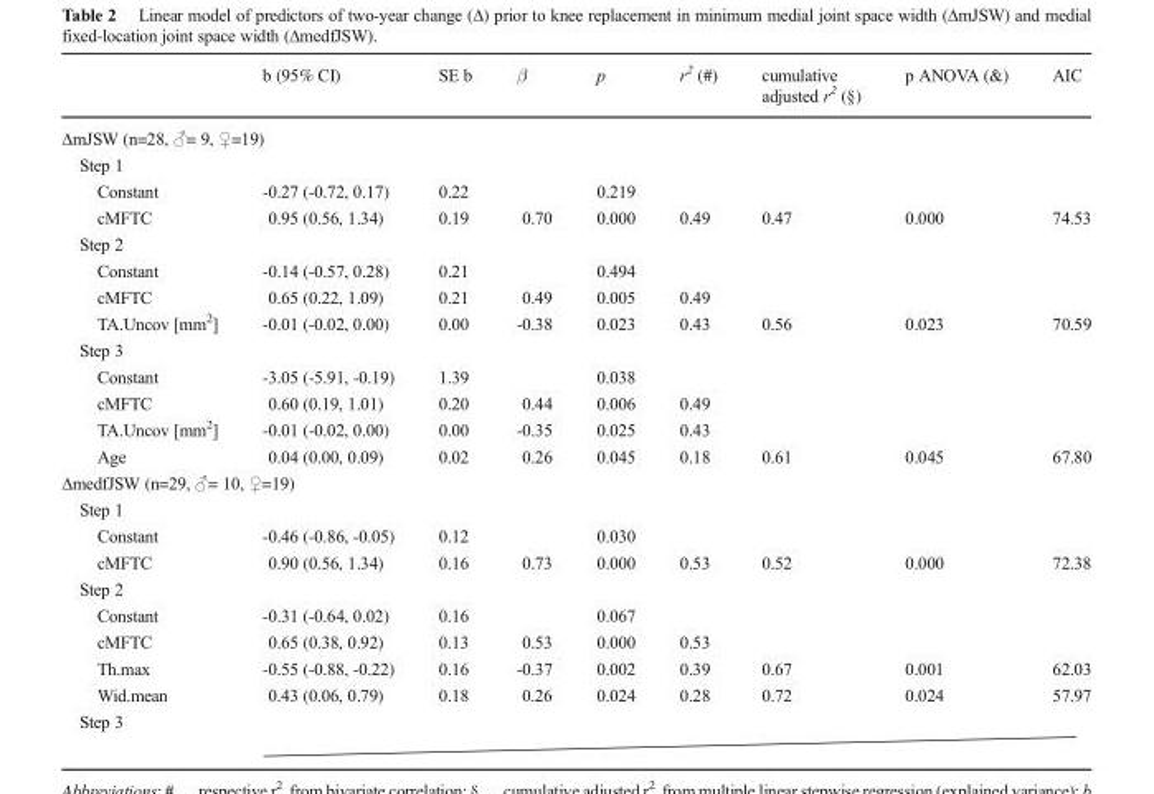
<table><thead><tr><td></td><td>b (95% CI)</td><td>SE b</td><td>β</td><td>p</td><td>r<sup>2</sup> (#)</td><td>cumulative adjusted r<sup>2</sup> (§)</td><td>p ANOVA (&amp;)</td><td>AIC</td></tr></thead><tbody><tr><td colspan="9">ΔmJSW (n=28, ♂= 9, ♀=19)</td></tr><tr><td colspan="9">Step 1</td></tr><tr><td>Constant</td><td>-0.27 (-0.72, 0.17)</td><td>0.22</td><td></td><td>0.219</td><td></td><td></td><td></td><td></td></tr><tr><td>cMFTC</td><td>0.95 (0.56, 1.34)</td><td>0.19</td><td>0.70</td><td>0.000</td><td>0.49</td><td>0.47</td><td>0.000</td><td>74.53</td></tr><tr><td colspan="9">Step 2</td></tr><tr><td>Constant</td><td>-0.14 (-0.57, 0.28)</td><td>0.21</td><td></td><td>0.494</td><td></td><td></td><td></td><td></td></tr><tr><td>cMFTC</td><td>0.65 (0.22, 1.09)</td><td>0.21</td><td>0.49</td><td>0.005</td><td>0.49</td><td></td><td></td><td></td></tr><tr><td>TA.Uncov [mm<sup>2</sup>]</td><td>-0.01 (-0.02, 0.00)</td><td>0.00</td><td>-0.38</td><td>0.023</td><td>0.43</td><td>0.56</td><td>0.023</td><td>70.59</td></tr><tr><td colspan="9">Step 3</td></tr><tr><td>Constant</td><td>-3.05 (-5.91, -0.19)</td><td>1.39</td><td></td><td>0.038</td><td></td><td></td><td></td><td></td></tr><tr><td>cMFTC</td><td>0.60 (0.19, 1.01)</td><td>0.20</td><td>0.44</td><td>0.006</td><td>0.49</td><td></td><td></td><td></td></tr><tr><td>TA.Uncov [mm<sup>2</sup>]</td><td>-0.01 (-0.02, 0.00)</td><td>0.00</td><td>-0.35</td><td>0.025</td><td>0.43</td><td></td><td></td><td></td></tr><tr><td>Age</td><td>0.04 (0.00, 0.09)</td><td>0.02</td><td>0.26</td><td>0.045</td><td>0.18</td><td>0.61</td><td>0.045</td><td>67.80</td></tr><tr><td colspan="9">ΔmedfJSW (n=29, ♂= 10, ♀=19)</td></tr><tr><td colspan="9">Step 1</td></tr><tr><td>Constant</td><td>-0.46 (-0.86, -0.05)</td><td>0.12</td><td></td><td>0.030</td><td></td><td></td><td></td><td></td></tr><tr><td>cMFTC</td><td>0.90 (0.56, 1.34)</td><td>0.16</td><td>0.73</td><td>0.000</td><td>0.53</td><td>0.52</td><td>0.000</td><td>72.38</td></tr><tr><td colspan="9">Step 2</td></tr><tr><td>Constant</td><td>-0.31 (-0.64, 0.02)</td><td>0.16</td><td></td><td>0.067</td><td></td><td></td><td></td><td></td></tr><tr><td>cMFTC</td><td>0.65 (0.38, 0.92)</td><td>0.13</td><td>0.53</td><td>0.000</td><td>0.53</td><td></td><td></td><td></td></tr><tr><td>Th.max</td><td>-0.55 (-0.88, -0.22)</td><td>0.16</td><td>-0.37</td><td>0.002</td><td>0.39</td><td>0.67</td><td>0.001</td><td>62.03</td></tr><tr><td>Wid.mean</td><td>0.43 (0.06, 0.79)</td><td>0.18</td><td>0.26</td><td>0.024</td><td>0.28</td><td>0.72</td><td>0.024</td><td>57.97</td></tr><tr><td colspan="9">Step 3</td></tr></tbody></table>